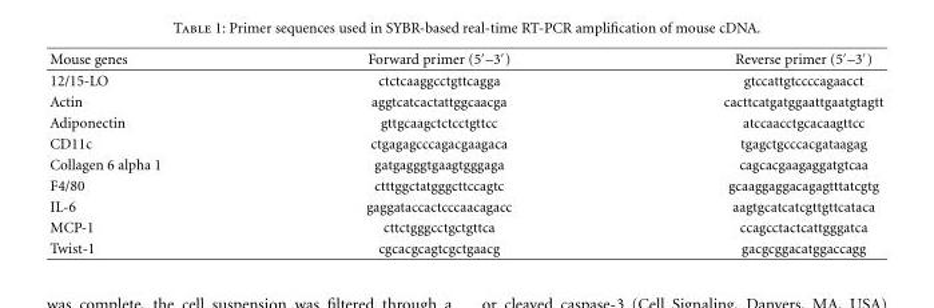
<table><thead><tr><td>Mouse genes</td><td>Forward primer (5′–3′)</td><td>Reverse primer (5′–3′)</td></tr></thead><tbody><tr><td>12/15-LO</td><td>ctctcaaggcctgttcagga</td><td>gtccattgtccccagaacct</td></tr><tr><td>Actin</td><td>aggtcatcactattggcaacga</td><td>cacttcatgatggaattgaatgtagtt</td></tr><tr><td>Adiponectin</td><td>gttgcaagctctcctgttcc</td><td>atccaacctgcacaagttcc</td></tr><tr><td>CD11c</td><td>ctgagagcccagacgaagaca</td><td>tgagctgcccacgataagag</td></tr><tr><td>Collagen 6 alpha 1</td><td>gatgagggtgaagtgggaga</td><td>cagcacgaagaggatgtcaa</td></tr><tr><td>F4/80</td><td>ctttggctatgggcttccagtc</td><td>gcaaggaggacagagtttatcgtg</td></tr><tr><td>IL-6</td><td>gaggataccactcccaacagacc</td><td>aagtgcatcatcgttgttcataca</td></tr><tr><td>MCP-1</td><td>cttctgggcctgctgttca</td><td>ccagcctactcattgggatca</td></tr><tr><td>Twist-1</td><td>cgcacgcagtcgctgaacg</td><td>gacgcggacatggaccagg</td></tr></tbody></table>